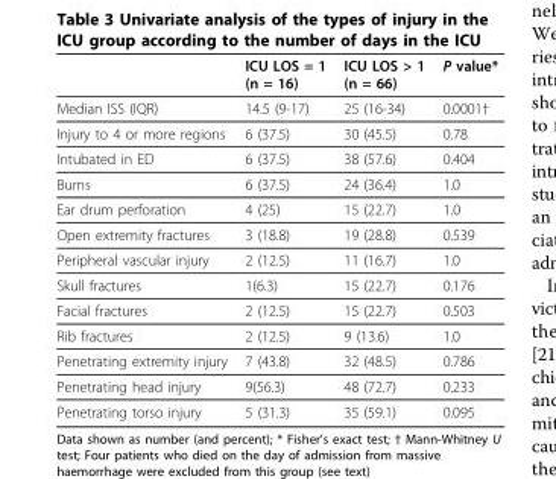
<table><thead><tr><td></td><td>ICU LOS = 1 (n = 16)</td><td>ICU LOS &gt; 1 (n = 66)</td><td>P value*</td></tr></thead><tbody><tr><td>Median ISS (IQR)</td><td>14.5 (9-17)</td><td>25 (16-34)</td><td>0.0001†</td></tr><tr><td>Injury to 4 or more regions</td><td>6 (37.5)</td><td>30 (45.5)</td><td>0.78</td></tr><tr><td>Intubated in ED</td><td>6 (37.5)</td><td>38 (57.6)</td><td>0.404</td></tr><tr><td>Burns</td><td>6 (37.5)</td><td>24 (36.4)</td><td>1.0</td></tr><tr><td>Ear drum perforation</td><td>4 (25)</td><td>15 (22.7)</td><td>1.0</td></tr><tr><td>Open extremity fractures</td><td>3 (18.8)</td><td>19 (28.8)</td><td>0.539</td></tr><tr><td>Peripheral vascular injury</td><td>2 (12.5)</td><td>11 (16.7)</td><td>1.0</td></tr><tr><td>Skull fractures</td><td>1(6.3)</td><td>15 (22.7)</td><td>0.176</td></tr><tr><td>Facial fractures</td><td>2 (12.5)</td><td>15 (22.7)</td><td>0.503</td></tr><tr><td>Rib fractures</td><td>2 (12.5)</td><td>9 (13.6)</td><td>1.0</td></tr><tr><td>Penetrating extremity injury</td><td>7 (43.8)</td><td>32 (48.5)</td><td>0.786</td></tr><tr><td>Penetrating head injury</td><td>9(56.3)</td><td>48 (72.7)</td><td>0.233</td></tr><tr><td>Penetrating torso injury</td><td>5 (31.3)</td><td>35 (59.1)</td><td>0.095</td></tr></tbody></table>